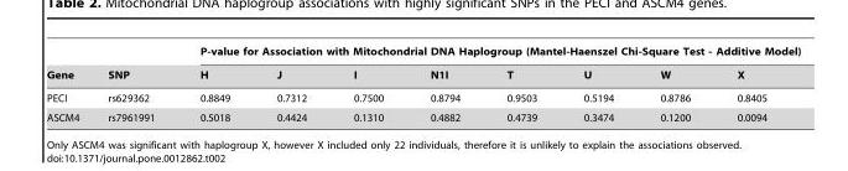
<table><thead><tr><td rowspan="2">Gene</td><td rowspan="2">SNP</td><td colspan="8">P-value for Association with Mitochondrial DNA Haplogroup (Mantel-Haenszel Chi-Square Test - Additive Model)</td></tr><tr><td>H</td><td>J</td><td>I</td><td>N1I</td><td>T</td><td>U</td><td>W</td><td>X</td></tr></thead><tbody><tr><td>PECI</td><td>rs629362</td><td>0.8849</td><td>0.7312</td><td>0.7500</td><td>0.8794</td><td>0.9503</td><td>0.5194</td><td>0.8786</td><td>0.8405</td></tr><tr><td>ASCM4</td><td>rs7961991</td><td>0.5018</td><td>0.4424</td><td>0.1310</td><td>0.4882</td><td>0.4739</td><td>0.3474</td><td>0.1200</td><td>0.0094</td></tr></tbody></table>